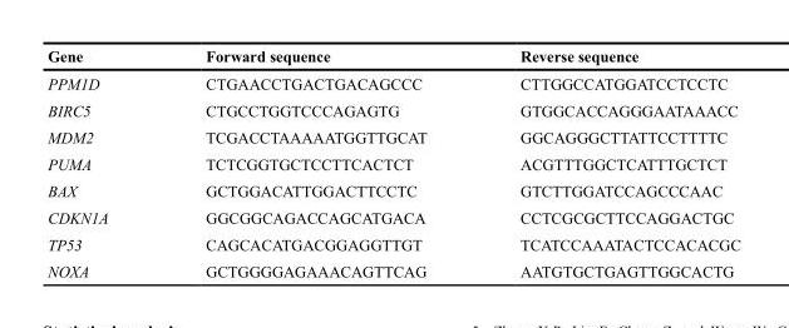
<table><thead><tr><td>Gene</td><td>Forward sequence</td><td>Reverse sequence</td></tr></thead><tbody><tr><td>PPM1D</td><td>CTGAACCTGACTGACAGCCC</td><td>CTTGGCCATGGATCCTCCTC</td></tr><tr><td>BIRC5</td><td>CTGCCTGGTCCCAGAGTG</td><td>GTGGCACCAGGGAATAAACC</td></tr><tr><td>MDM2</td><td>TCGACCTAAAAATGGTTGCAT</td><td>GGCAGGGCTTATTCCTTTTC</td></tr><tr><td>PUMA</td><td>TCTCGGTGCTCCTTCACTCT</td><td>ACGTTTGGCTCATTTGCTCT</td></tr><tr><td>BAX</td><td>GCTGGACATTGGACTTCCTC</td><td>GTCTTGGATCCAGCCCAAC</td></tr><tr><td>CDKN1A</td><td>GGCGGCAGACCAGCATGACA</td><td>CCTCGCGCTTCCAGGACTGC</td></tr><tr><td>TP53</td><td>CAGCACATGACGGAGGTTGT</td><td>TCATCCAAATACTCCACACGC</td></tr><tr><td>NOXA</td><td>GCTGGGGAGAAACAGTTCAG</td><td>AATGTGCTGAGTTGGCACTG</td></tr></tbody></table>